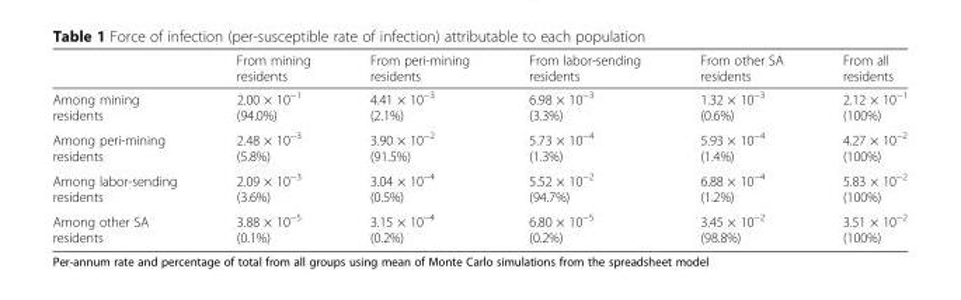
<table><thead><tr><td></td><td>From mining residents</td><td>From peri-mining residents</td><td>From labor-sending residents</td><td>From other SA residents</td><td>From all residents</td></tr></thead><tbody><tr><td>Among mining residents</td><td>2.00 × 10<sup>−1</sup> (94.0%)</td><td>4.41 × 10<sup>−3</sup> (2.1%)</td><td>6.98 × 10<sup>−3</sup> (3.3%)</td><td>1.32 × 10<sup>−3</sup> (0.6%)</td><td>2.12 × 10<sup>−1</sup> (100%)</td></tr><tr><td>Among peri-mining residents</td><td>2.48 × 10<sup>−3</sup> (5.8%)</td><td>3.90 × 10<sup>−2</sup> (91.5%)</td><td>5.73 × 10<sup>−4</sup> (1.3%)</td><td>5.93 × 10<sup>−4</sup> (1.4%)</td><td>4.27 × 10<sup>−2</sup> (100%)</td></tr><tr><td>Among labor-sending residents</td><td>2.09 × 10<sup>−3</sup> (3.6%)</td><td>3.04 × 10<sup>−4</sup> (0.5%)</td><td>5.52 × 10<sup>−2</sup> (94.7%)</td><td>6.88 × 10<sup>−4</sup> (1.2%)</td><td>5.83 × 10<sup>−2</sup> (100%)</td></tr><tr><td>Among other SA residents</td><td>3.88 × 10<sup>−5</sup> (0.1%)</td><td>3.15 × 10<sup>−4</sup> (0.2%)</td><td>6.80 × 10<sup>−5</sup> (0.2%)</td><td>3.45 × 10<sup>−2</sup> (98.8%)</td><td>3.51 × 10<sup>−2</sup> (100%)</td></tr></tbody></table>